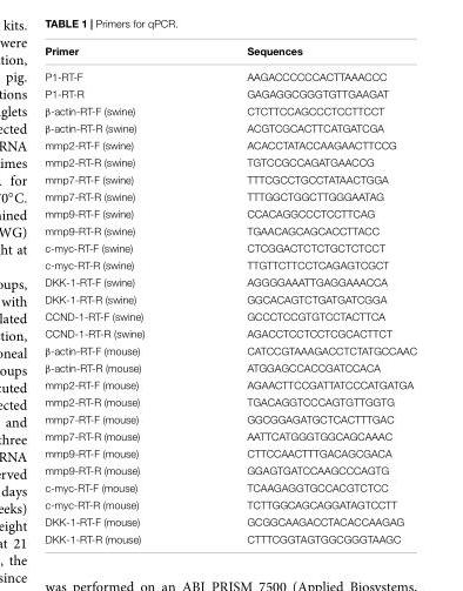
<table><thead><tr><td>Primer</td><td>Sequences</td></tr></thead><tbody><tr><td>P1-RT-F</td><td>AAGACCCCCCACTTAAACCC</td></tr><tr><td>P1-RT-R</td><td>GAGAGGCGGGTGTTGAAGAT</td></tr><tr><td>β-actin-RT-F (swine)</td><td>CTCTTCCAGCCCTCCTTCCT</td></tr><tr><td>β-actin-RT-R (swine)</td><td>ACGTCGCACTTCATGATCGA</td></tr><tr><td>mmp2-RT-F (swine)</td><td>ACACCTATACCAAGAACTTCCG</td></tr><tr><td>mmp2-RT-R (swine)</td><td>TGTCCGCCAGATGAACCG</td></tr><tr><td>mmp7-RT-F (swine)</td><td>TTTCGCCTGCCTATAACTGGA</td></tr><tr><td>mmp7-RT-R (swine)</td><td>TTTGGCTGGCTTGGGAATAG</td></tr><tr><td>mmp9-RT-F (swine)</td><td>CCACAGGCCCTCCTTCAG</td></tr><tr><td>mmp9-RT-R (swine)</td><td>TGAACAGCAGCACCTTACC</td></tr><tr><td>c-myc-RT-F (swine)</td><td>CTCGGACTCTCTGCTCTCCT</td></tr><tr><td>c-myc-RT-R (swine)</td><td>TTGTTCTTCCTCAGAGTCGCT</td></tr><tr><td>DKK-1-RT-F (swine)</td><td>AGGGGAAATTGAGGAAACCA</td></tr><tr><td>DKK-1-RT-R (swine)</td><td>GGCACAGTCTGATGATCGGA</td></tr><tr><td>CCND-1-RT-F (swine)</td><td>GCCCTCCGTGTCCTACTTCA</td></tr><tr><td>CCND-1-RT-R (swine)</td><td>AGACCTCCTCCTCGCACTTCT</td></tr><tr><td>β-actin-RT-F (mouse)</td><td>CATCCGTAAAGACCTCTATGCCAAC</td></tr><tr><td>β-actin-RT-R (mouse)</td><td>ATGGAGCCACCGATCCACA</td></tr><tr><td>mmp2-RT-F (mouse)</td><td>AGAACTTCCGATTATCCCATGATGA</td></tr><tr><td>mmp2-RT-R (mouse)</td><td>TGACAGGTCCCAGTGTTGGTG</td></tr><tr><td>mmp7-RT-F (mouse)</td><td>GGCGGAGATGCTCACTTTGAC</td></tr><tr><td>mmp7-RT-R (mouse)</td><td>AATTCATGGGTGGCAGCAAAC</td></tr><tr><td>mmp9-RT-F (mouse)</td><td>CTTCCAACTTTGACAGCGACA</td></tr><tr><td>mmp9-RT-R (mouse)</td><td>GGAGTGATCCAAGCCCAGTG</td></tr><tr><td>c-myc-RT-F (mouse)</td><td>TCAAGAGGTGCCACGTCTCC</td></tr><tr><td>c-myc-RT-R (mouse)</td><td>TCTTGGCAGCAGGATAGTCCTT</td></tr><tr><td>DKK-1-RT-F (mouse)</td><td>GCGGCAAGACCTACACCAAGAG</td></tr><tr><td>DKK-1-RT-R (mouse)</td><td>CTTTCGGTAGTGGCGGGTAAGC</td></tr></tbody></table>